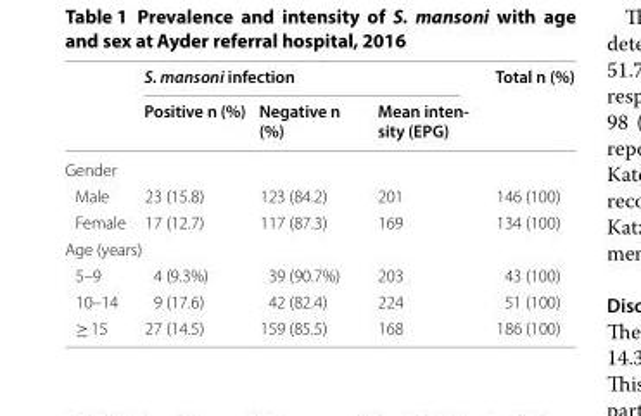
<table><thead><tr><td rowspan="2"></td><td colspan="3">S. mansoni infection</td><td rowspan="2">Total n (%)</td></tr><tr><td>Positive n (%)</td><td>Negative n (%)</td><td>Mean inten sity (EPG)</td></tr></thead><tbody><tr><td colspan="5">Gender</td></tr><tr><td>Male</td><td>23 (15.8)</td><td>123 (84.2)</td><td>201</td><td>146 (100)</td></tr><tr><td>Female</td><td>17 (12.7)</td><td>117 (87.3)</td><td>169</td><td>134 (100)</td></tr><tr><td colspan="5">Age (years)</td></tr><tr><td>5–9</td><td>4 (9.3%)</td><td>39 (90.7%)</td><td>203</td><td>43 (100)</td></tr><tr><td>10–14</td><td>9 (17.6)</td><td>42 (82.4)</td><td>224</td><td>51 (100)</td></tr><tr><td>≥ 15</td><td>27 (14.5)</td><td>159 (85.5)</td><td>168</td><td>186 (100)</td></tr></tbody></table>